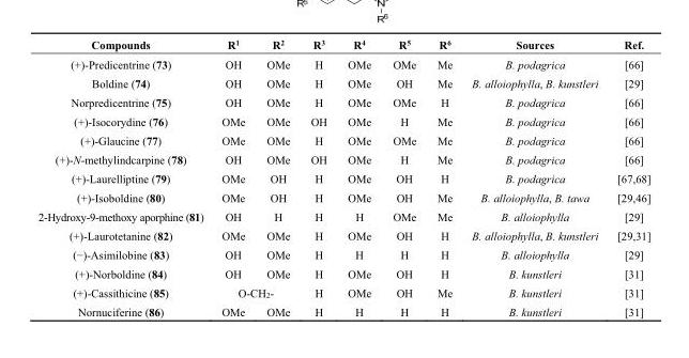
<table><thead><tr><td>Compounds</td><td>R<sup>1</sup></td><td>R<sup>2</sup></td><td>R<sup>3</sup></td><td>R<sup>4</sup></td><td>R<sup>5</sup></td><td>R<sup>6</sup></td><td>Sources</td><td>Ref.</td></tr></thead><tbody><tr><td>(+)-Predicentrine (73)</td><td>OH</td><td>OMe</td><td>H</td><td>OMe</td><td>OMe</td><td>Me</td><td>B. podagrica</td><td>[66]</td></tr><tr><td>Boldine (74)</td><td>OH</td><td>OMe</td><td>H</td><td>OMe</td><td>OH</td><td>Me</td><td>B. alloiophylla, B. kunstleri</td><td>[29]</td></tr><tr><td>Norpredicentrine (75)</td><td>OH</td><td>OMe</td><td>H</td><td>OMe</td><td>OMe</td><td>H</td><td>B. podagrica</td><td>[66]</td></tr><tr><td>(+)-Isocorydine (76)</td><td>OMe</td><td>OMe</td><td>OH</td><td>OMe</td><td>H</td><td>Me</td><td>B. podagrica</td><td>[66]</td></tr><tr><td>(+)-Glaucine (77)</td><td>OMe</td><td>OMe</td><td>H</td><td>OMe</td><td>OMe</td><td>Me</td><td>B. podagrica</td><td>[66]</td></tr><tr><td>(+)-N-methylindcarpine (78)</td><td>OH</td><td>OMe</td><td>OH</td><td>OMe</td><td>H</td><td>Me</td><td>B. podagrica</td><td>[66]</td></tr><tr><td>(+)-Laurelliptine (79)</td><td>OMe</td><td>OH</td><td>H</td><td>OMe</td><td>OH</td><td>H</td><td>B. podagrica</td><td>[67,68]</td></tr><tr><td>(+)-Isoboldine (80)</td><td>OMe</td><td>OH</td><td>H</td><td>OMe</td><td>OH</td><td>Me</td><td>B. alloiophylla, B. tawa</td><td>[29,46]</td></tr><tr><td>2-Hydroxy-9-methoxy aporphine (81)</td><td>OH</td><td>H</td><td>H</td><td>H</td><td>OMe</td><td>Me</td><td>B. alloiophylla</td><td>[29]</td></tr><tr><td>(+)-Laurotetanine (82)</td><td>OMe</td><td>OMe</td><td>H</td><td>OMe</td><td>OH</td><td>H</td><td>B. alloiophylla, B. kunstleri</td><td>[29,31]</td></tr><tr><td>(−)-Asimilobine (83)</td><td>OH</td><td>OMe</td><td>H</td><td>H</td><td>H</td><td>H</td><td>B. alloiophylla</td><td>[29]</td></tr><tr><td>(+)-Norboldine (84)</td><td>OH</td><td>OMe</td><td>H</td><td>OMe</td><td>OH</td><td>H</td><td>B. kunstleri</td><td>[31]</td></tr><tr><td>(+)-Cassithicine (85)</td><td colspan="2">O-CH<sub>2</sub>-</td><td>H</td><td>OMe</td><td>OH</td><td>Me</td><td>B. kunstleri</td><td>[31]</td></tr><tr><td>Nornuciferine (86)</td><td>OMe</td><td>OMe</td><td>H</td><td>H</td><td>H</td><td>H</td><td>B. kunstleri</td><td>[31]</td></tr></tbody></table>